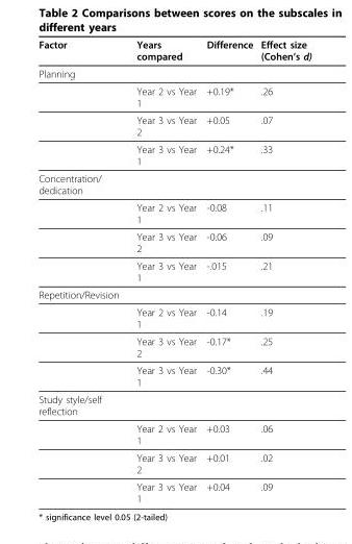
<table><thead><tr><td>Factor</td><td>Years compared</td><td>Difference</td><td>Effect size (Cohen’s d)</td></tr></thead><tbody><tr><td colspan="4">Planning</td></tr><tr><td></td><td>Year 2 vs Year 1</td><td>+0.19*</td><td>.26</td></tr><tr><td></td><td>Year 3 vs Year 2</td><td>+0.05</td><td>.07</td></tr><tr><td></td><td>Year 3 vs Year 1</td><td>+0.24*</td><td>.33</td></tr><tr><td colspan="4">Concentration/ dedication</td></tr><tr><td></td><td>Year 2 vs Year 1</td><td>-0.08</td><td>.11</td></tr><tr><td></td><td>Year 3 vs Year 2</td><td>-0.06</td><td>.09</td></tr><tr><td></td><td>Year 3 vs Year 1</td><td>-.015</td><td>.21</td></tr><tr><td colspan="4">Repetition/Revision</td></tr><tr><td></td><td>Year 2 vs Year 1</td><td>-0.14</td><td>.19</td></tr><tr><td></td><td>Year 3 vs Year 2</td><td>-0.17*</td><td>.25</td></tr><tr><td></td><td>Year 3 vs Year 1</td><td>-0.30*</td><td>.44</td></tr><tr><td colspan="4">Study style/self reflection</td></tr><tr><td></td><td>Year 2 vs Year 1</td><td>+0.03</td><td>.06</td></tr><tr><td></td><td>Year 3 vs Year 2</td><td>+0.01</td><td>.02</td></tr><tr><td></td><td>Year 3 vs Year 1</td><td>+0.04</td><td>.09</td></tr></tbody></table>